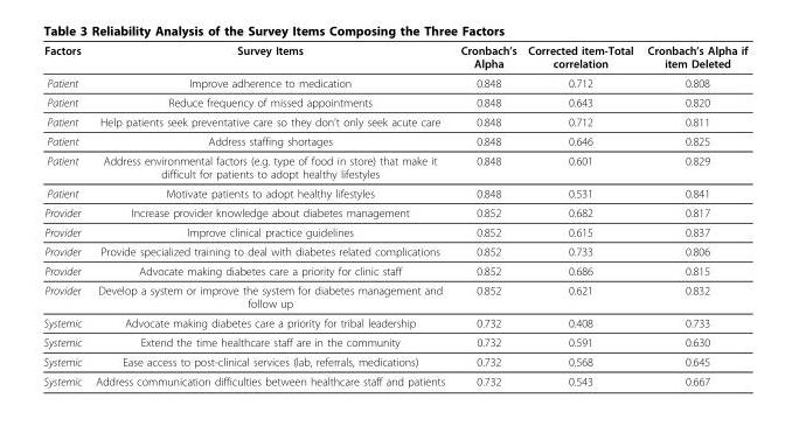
<table><thead><tr><td>Factors</td><td>Survey Items</td><td>Cronbach’s Alpha</td><td>Corrected item-Total correlation</td><td>Cronbach’s Alpha if item Deleted</td></tr></thead><tbody><tr><td>Patient</td><td>Improve adherence to medication</td><td>0.848</td><td>0.712</td><td>0.808</td></tr><tr><td>Patient</td><td>Reduce frequency of missed appointments</td><td>0.848</td><td>0.643</td><td>0.820</td></tr><tr><td>Patient</td><td>Help patients seek preventative care so they don’t only seek acute care</td><td>0.848</td><td>0.712</td><td>0.811</td></tr><tr><td>Patient</td><td>Address staffing shortages</td><td>0.848</td><td>0.646</td><td>0.825</td></tr><tr><td>Patient</td><td>Address environmental factors (e.g. type of food in store) that make it difficult for patients to adopt healthy lifestyles</td><td>0.848</td><td>0.601</td><td>0.829</td></tr><tr><td>Patient</td><td>Motivate patients to adopt healthy lifestyles</td><td>0.848</td><td>0.531</td><td>0.841</td></tr><tr><td>Provider</td><td>Increase provider knowledge about diabetes management</td><td>0.852</td><td>0.682</td><td>0.817</td></tr><tr><td>Provider</td><td>Improve clinical practice guidelines</td><td>0.852</td><td>0.615</td><td>0.837</td></tr><tr><td>Provider</td><td>Provide specialized training to deal with diabetes related complications</td><td>0.852</td><td>0.733</td><td>0.806</td></tr><tr><td>Provider</td><td>Advocate making diabetes care a priority for clinic staff</td><td>0.852</td><td>0.686</td><td>0.815</td></tr><tr><td>Provider</td><td>Develop a system or improve the system for diabetes management and follow up</td><td>0.852</td><td>0.621</td><td>0.832</td></tr><tr><td>Systemic</td><td>Advocate making diabetes care a priority for tribal leadership</td><td>0.732</td><td>0.408</td><td>0.733</td></tr><tr><td>Systemic</td><td>Extend the time healthcare staff are in the community</td><td>0.732</td><td>0.591</td><td>0.630</td></tr><tr><td>Systemic</td><td>Ease access to post-clinical services (lab, referrals, medications)</td><td>0.732</td><td>0.568</td><td>0.645</td></tr><tr><td>Systemic</td><td>Address communication difficulties between healthcare staff and patients</td><td>0.732</td><td>0.543</td><td>0.667</td></tr></tbody></table>